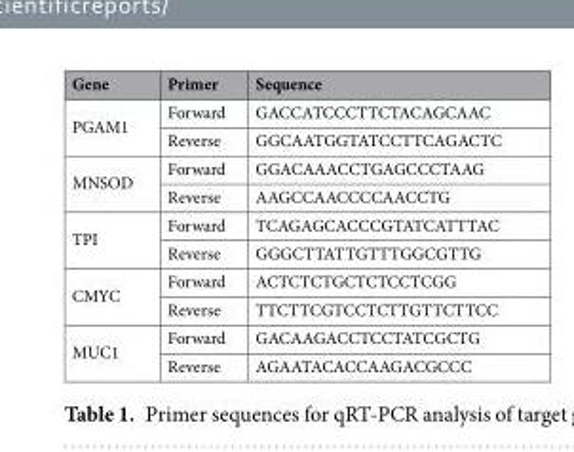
<table><thead><tr><td>Gene</td><td>Primer</td><td>Sequence</td></tr></thead><tbody><tr><td rowspan="2">PGAM1</td><td>Forward</td><td>GACCATCCCTTCTACAGCAAC</td></tr><tr><td>Reverse</td><td>GGCAATGGTATCCTTCAGACTC</td></tr><tr><td rowspan="2">MNSOD</td><td>Forward</td><td>GGACAAACCTGAGCCCTAAG</td></tr><tr><td>Reverse</td><td>AAGCCAACCCCAACCTG</td></tr><tr><td rowspan="2">TPI</td><td>Forward</td><td>TCAGAGCACCCGTATCATTTAC</td></tr><tr><td>Reverse</td><td>GGGCTTATTGTTTGGCGTTG</td></tr><tr><td rowspan="2">CMYC</td><td>Forward</td><td>ACTCTCTGCTCTCCTCGG</td></tr><tr><td>Reverse</td><td>TTCTTCGTCCTCTTGTTCTTCC</td></tr><tr><td rowspan="2">MUC1</td><td>Forward</td><td>GACAAGACCTCCTATCGCTG</td></tr><tr><td>Reverse</td><td>AGAATACACCAAGACGCCC</td></tr></tbody></table>